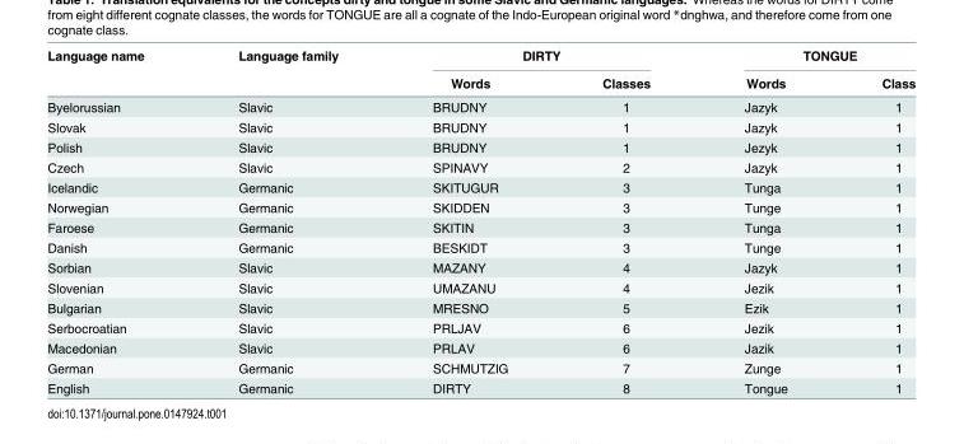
<table><thead><tr><td rowspan="2">Language name</td><td rowspan="2">Language family</td><td colspan="2">DIRTY</td><td colspan="2">TONGUE</td></tr><tr><td>Words</td><td>Classes</td><td>Words</td><td>Class</td></tr></thead><tbody><tr><td>Byelorussian</td><td>Slavic</td><td>BRUDNY</td><td>1</td><td>Jazyk</td><td>1</td></tr><tr><td>Slovak</td><td>Slavic</td><td>BRUDNY</td><td>1</td><td>Jazyk</td><td>1</td></tr><tr><td>Polish</td><td>Slavic</td><td>BRUDNY</td><td>1</td><td>Jezyk</td><td>1</td></tr><tr><td>Czech</td><td>Slavic</td><td>SPINAVY</td><td>2</td><td>Jazyk</td><td>1</td></tr><tr><td>Icelandic</td><td>Germanic</td><td>SKITUGUR</td><td>3</td><td>Tunga</td><td>1</td></tr><tr><td>Norwegian</td><td>Germanic</td><td>SKIDDEN</td><td>3</td><td>Tunge</td><td>1</td></tr><tr><td>Faroese</td><td>Germanic</td><td>SKITIN</td><td>3</td><td>Tunga</td><td>1</td></tr><tr><td>Danish</td><td>Germanic</td><td>BESKIDT</td><td>3</td><td>Tunge</td><td>1</td></tr><tr><td>Sorbian</td><td>Slavic</td><td>MAZANY</td><td>4</td><td>Jazyk</td><td>1</td></tr><tr><td>Slovenian</td><td>Slavic</td><td>UMAZANU</td><td>4</td><td>Jezik</td><td>1</td></tr><tr><td>Bulgarian</td><td>Slavic</td><td>MRESNO</td><td>5</td><td>Ezik</td><td>1</td></tr><tr><td>Serbocroatian</td><td>Slavic</td><td>PRLJAV</td><td>6</td><td>Jezik</td><td>1</td></tr><tr><td>Macedonian</td><td>Slavic</td><td>PRLAV</td><td>6</td><td>Jazik</td><td>1</td></tr><tr><td>German</td><td>Germanic</td><td>SCHMUTZIG</td><td>7</td><td>Zunge</td><td>1</td></tr><tr><td>English</td><td>Germanic</td><td>DIRTY</td><td>8</td><td>Tongue</td><td>1</td></tr></tbody></table>